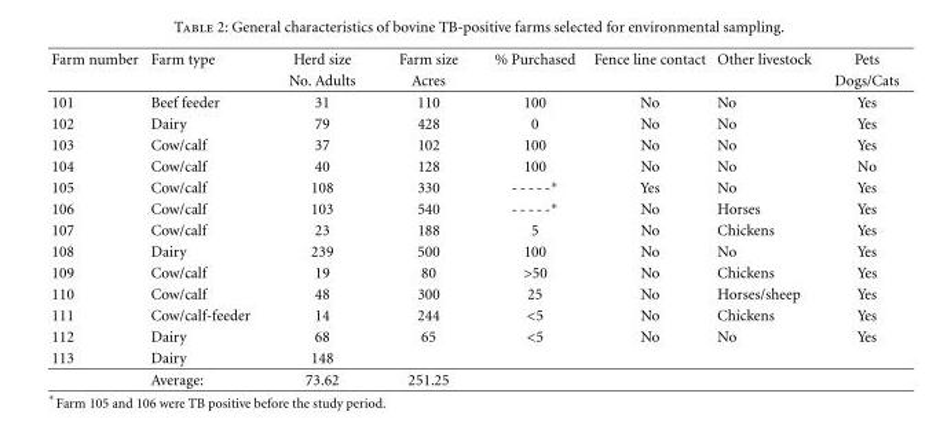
<table><thead><tr><td rowspan="2">Farm number</td><td rowspan="2">Farm type</td><td rowspan="2">Herd size No. Adults</td><td rowspan="2">Farm size Acres</td><td rowspan="2">% Purchased</td><td rowspan="2">Fence line contact</td><td rowspan="2">Other livestock</td><td rowspan="2">Pets Dogs/Cats</td></tr><tr></tr></thead><tbody><tr><td>101</td><td>Beef feeder</td><td>31</td><td>110</td><td>100</td><td>No</td><td>No</td><td>Yes</td></tr><tr><td>102</td><td>Dairy</td><td>79</td><td>428</td><td>0</td><td>No</td><td>No</td><td>Yes</td></tr><tr><td>103</td><td>Cow/calf</td><td>37</td><td>102</td><td>100</td><td>No</td><td>No</td><td>Yes</td></tr><tr><td>104</td><td>Cow/calf</td><td>40</td><td>128</td><td>100</td><td>No</td><td>No</td><td>No</td></tr><tr><td>105</td><td>Cow/calf</td><td>108</td><td>330</td><td>- - - - -∗</td><td>Yes</td><td>No</td><td>Yes</td></tr><tr><td>106</td><td>Cow/calf</td><td>103</td><td>540</td><td>- - - - -∗</td><td>No</td><td>Horses</td><td>Yes</td></tr><tr><td>107</td><td>Cow/calf</td><td>23</td><td>188</td><td>5</td><td>No</td><td>Chickens</td><td>Yes</td></tr><tr><td>108</td><td>Dairy</td><td>239</td><td>500</td><td>100</td><td>No</td><td>No</td><td>Yes</td></tr><tr><td>109</td><td>Cow/calf</td><td>19</td><td>80</td><td>&gt;50</td><td>No</td><td>Chickens</td><td>Yes</td></tr><tr><td>110</td><td>Cow/calf</td><td>48</td><td>300</td><td>25</td><td>No</td><td>Horses/sheep</td><td>Yes</td></tr><tr><td>111</td><td>Cow/calf-feeder</td><td>14</td><td>244</td><td>&lt;5</td><td>No</td><td>Chickens</td><td>Yes</td></tr><tr><td>112</td><td>Dairy</td><td>68</td><td>65</td><td>&lt;5</td><td>No</td><td>No</td><td>Yes</td></tr><tr><td rowspan="2">113</td><td>Dairy</td><td>148</td><td></td><td></td><td></td><td></td><td></td></tr><tr><td>Average:</td><td>73.62</td><td>251.25</td><td></td><td></td><td></td><td></td></tr></tbody></table>